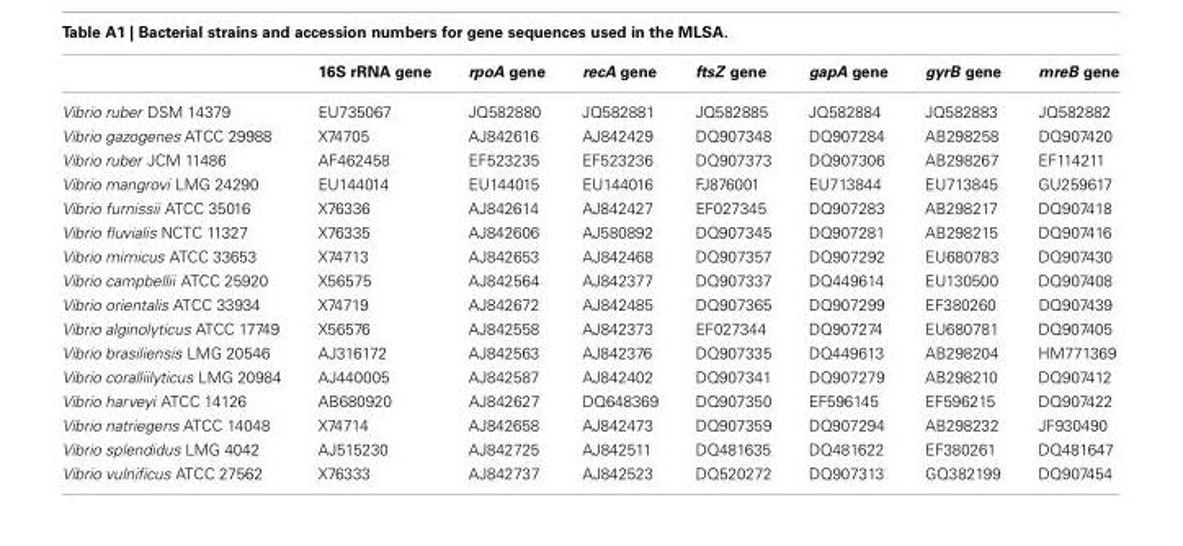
<table><thead><tr><td></td><td>16S rRNA gene</td><td>rpoA gene</td><td>recA gene</td><td>ftsZ gene</td><td>gapA gene</td><td>gyrB gene</td><td>mreB gene</td></tr></thead><tbody><tr><td>Vibrio ruber DSM 14379</td><td>EU735067</td><td>JQ582880</td><td>JQ582881</td><td>JQ582885</td><td>JQ582884</td><td>JQ582883</td><td>JQ582882</td></tr><tr><td>Vibrio gazogenes ATCC 29988</td><td>X74705</td><td>AJ842616</td><td>AJ842429</td><td>DQ907348</td><td>DQ907284</td><td>AB298258</td><td>DQ907420</td></tr><tr><td>Vibrio ruber JCM 11486</td><td>AF462458</td><td>EF523235</td><td>EF523236</td><td>DQ907373</td><td>DQ907306</td><td>AB298267</td><td>EF114211</td></tr><tr><td>Vibrio mangrovi LMG 24290</td><td>EU144014</td><td>EU144015</td><td>EU144016</td><td>FJ876001</td><td>EU713844</td><td>EU713845</td><td>GU259617</td></tr><tr><td>Vibrio furnissii ATCC 35016</td><td>X76336</td><td>AJ842614</td><td>AJ842427</td><td>EF027345</td><td>DQ907283</td><td>AB298217</td><td>DQ907418</td></tr><tr><td>Vibrio fluvialis NCTC 11327</td><td>X76335</td><td>AJ842606</td><td>AJ580892</td><td>DQ907345</td><td>DQ907281</td><td>AB298215</td><td>DQ907416</td></tr><tr><td>Vibrio mimicus ATCC 33653</td><td>X74713</td><td>AJ842653</td><td>AJ842468</td><td>DQ907357</td><td>DQ907292</td><td>EU680783</td><td>DQ907430</td></tr><tr><td>Vibrio campbellii ATCC 25920</td><td>X56575</td><td>AJ842564</td><td>AJ842377</td><td>DQ907337</td><td>DQ449614</td><td>EU130500</td><td>DQ907408</td></tr><tr><td>Vibrio orientalis ATCC 33934</td><td>X74719</td><td>AJ842672</td><td>AJ842485</td><td>DQ907365</td><td>DQ907299</td><td>EF380260</td><td>DQ907439</td></tr><tr><td>Vibrio alginolyticus ATCC 17749</td><td>X56576</td><td>AJ842558</td><td>AJ842373</td><td>EF027344</td><td>DQ907274</td><td>EU680781</td><td>DQ907405</td></tr><tr><td>Vibrio brasiliensis LMG 20546</td><td>AJ316172</td><td>AJ842563</td><td>AJ842376</td><td>DQ907335</td><td>DQ449613</td><td>AB298204</td><td>HM771369</td></tr><tr><td>Vibrio coralliilyticus LMG 20984</td><td>AJ440005</td><td>AJ842587</td><td>AJ842402</td><td>DQ907341</td><td>DQ907279</td><td>AB298210</td><td>DQ907412</td></tr><tr><td>Vibrio harveyi ATCC 14126</td><td>AB680920</td><td>AJ842627</td><td>DQ648369</td><td>DQ907350</td><td>EF596145</td><td>EF596215</td><td>DQ907422</td></tr><tr><td>Vibrio natriegens ATCC 14048</td><td>X74714</td><td>AJ842658</td><td>AJ842473</td><td>DQ907359</td><td>DQ907294</td><td>AB298232</td><td>JF930490</td></tr><tr><td>Vibrio splendidus LMG 4042</td><td>AJ515230</td><td>AJ842725</td><td>AJ842511</td><td>DQ481635</td><td>DQ481622</td><td>EF380261</td><td>DQ481647</td></tr><tr><td>Vibrio vulnificus ATCC 27562</td><td>X76333</td><td>AJ842737</td><td>AJ842523</td><td>DQ520272</td><td>DQ907313</td><td>GQ382199</td><td>DQ907454</td></tr></tbody></table>